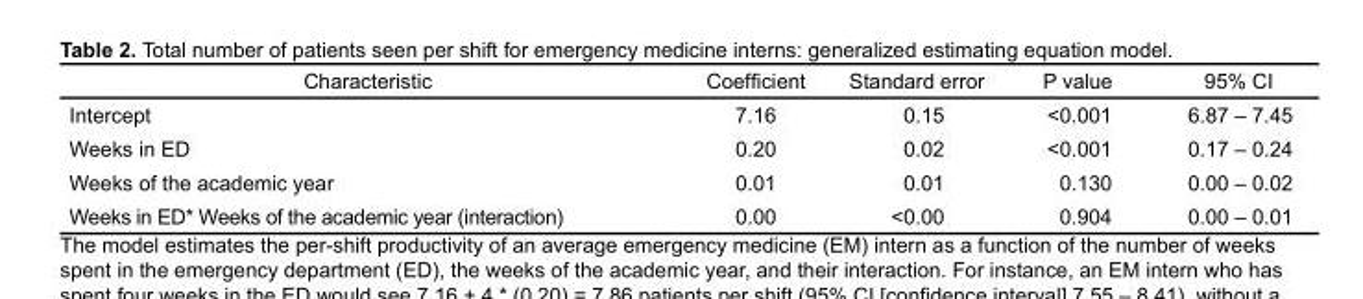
<table><thead><tr><td>Characteristic</td><td>Coefficient</td><td>Standard error</td><td>P value</td><td>95% CI</td></tr></thead><tbody><tr><td>Intercept</td><td>7.16</td><td>0.15</td><td>&lt;0.001</td><td>6.87 – 7.45</td></tr><tr><td>Weeks in ED</td><td>0.20</td><td>0.02</td><td>&lt;0.001</td><td>0.17 – 0.24</td></tr><tr><td>Weeks of the academic year</td><td>0.01</td><td>0.01</td><td>0.130</td><td>0.00 – 0.02</td></tr><tr><td>Weeks in ED* Weeks of the academic year (interaction)</td><td>0.00</td><td>&lt;0.00</td><td>0.904</td><td>0.00 – 0.01</td></tr></tbody></table>